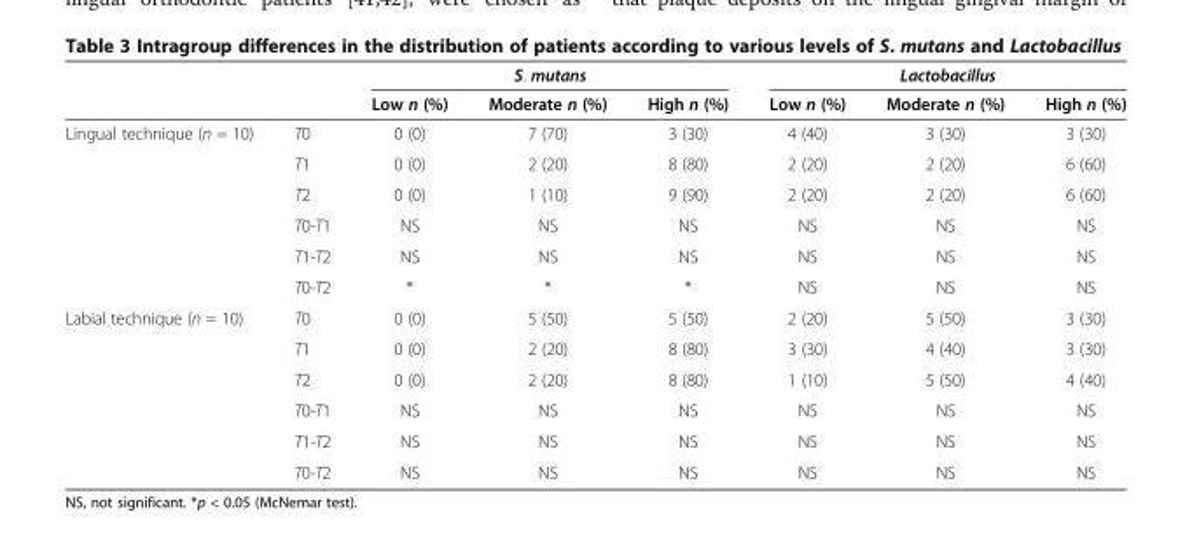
<table><thead><tr><td rowspan="2"></td><td rowspan="2"></td><td colspan="3">S. mutans</td><td colspan="3">Lactobacillus</td></tr><tr><td>Low n (%)</td><td>Moderate n (%)</td><td>High n (%)</td><td>Low n (%)</td><td>Moderate n (%)</td><td>High n (%)</td></tr></thead><tbody><tr><td rowspan="6">Lingual technique (n = 10)</td><td>T0</td><td>0 (0)</td><td>7 (70)</td><td>3 (30)</td><td>4 (40)</td><td>3 (30)</td><td>3 (30)</td></tr><tr><td>T1</td><td>0 (0)</td><td>2 (20)</td><td>8 (80)</td><td>2 (20)</td><td>2 (20)</td><td>6 (60)</td></tr><tr><td>T2</td><td>0 (0)</td><td>1 (10)</td><td>9 (90)</td><td>2 (20)</td><td>2 (20)</td><td>6 (60)</td></tr><tr><td>T0-T1</td><td>NS</td><td>NS</td><td>NS</td><td>NS</td><td>NS</td><td>NS</td></tr><tr><td>T1-T2</td><td>NS</td><td>NS</td><td>NS</td><td>NS</td><td>NS</td><td>NS</td></tr><tr><td>T0-T2</td><td>*</td><td>*</td><td>*</td><td>NS</td><td>NS</td><td>NS</td></tr><tr><td rowspan="6">Labial technique (n = 10)</td><td>T0</td><td>0 (0)</td><td>5 (50)</td><td>5 (50)</td><td>2 (20)</td><td>5 (50)</td><td>3 (30)</td></tr><tr><td>T1</td><td>0 (0)</td><td>2 (20)</td><td>8 (80)</td><td>3 (30)</td><td>4 (40)</td><td>3 (30)</td></tr><tr><td>T2</td><td>0 (0)</td><td>2 (20)</td><td>8 (80)</td><td>1 (10)</td><td>5 (50)</td><td>4 (40)</td></tr><tr><td>T0-T1</td><td>NS</td><td>NS</td><td>NS</td><td>NS</td><td>NS</td><td>NS</td></tr><tr><td>T1-T2</td><td>NS</td><td>NS</td><td>NS</td><td>NS</td><td>NS</td><td>NS</td></tr><tr><td>T0-T2</td><td>NS</td><td>NS</td><td>NS</td><td>NS</td><td>NS</td><td>NS</td></tr></tbody></table>